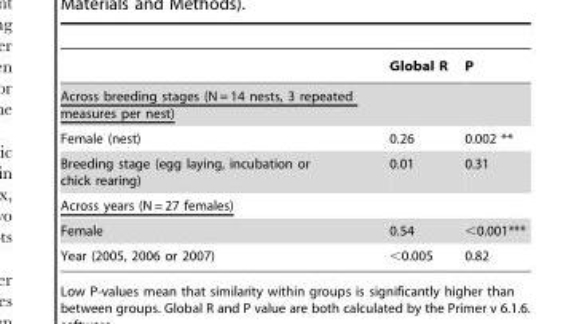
<table><thead><tr><td></td><td>Global R</td><td>P</td></tr></thead><tbody><tr><td colspan="3">Across breeding stages (N = 14 nests, 3 repeated measures per nest)</td></tr><tr><td>Female (nest)</td><td>0.26</td><td>0.002 **</td></tr><tr><td>Breeding stage (egg laying, incubation or chick rearing)</td><td>0.01</td><td>0.31</td></tr><tr><td colspan="3">Across years (N = 27 females)</td></tr><tr><td>Female</td><td>0.54</td><td>&lt;0.001***</td></tr><tr><td>Year (2005, 2006 or 2007)</td><td>&lt;0.005</td><td>0.82</td></tr></tbody></table>